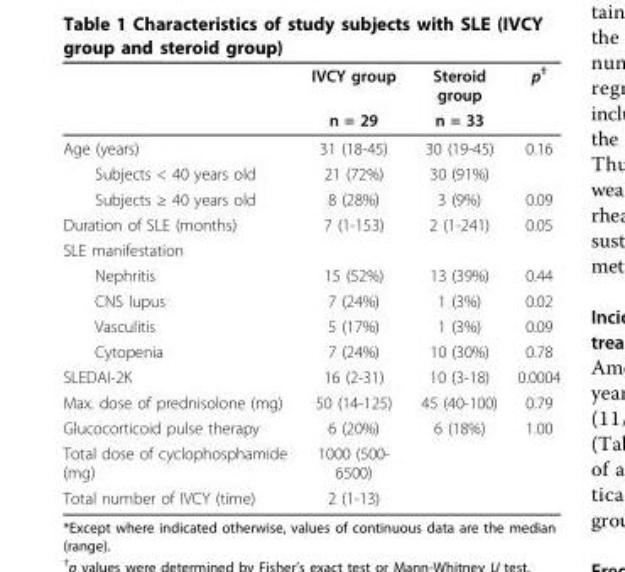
<table><thead><tr><td rowspan="2"></td><td rowspan="2">IVCY group n = 29</td><td rowspan="2">Steroid group n = 33</td><td rowspan="2">p<sup>†</sup></td></tr><tr></tr></thead><tbody><tr><td>Age (years)</td><td>31 (18-45)</td><td>30 (19-45)</td><td>0.16</td></tr><tr><td>Subjects &lt; 40 years old</td><td>21 (72%)</td><td>30 (91%)</td><td></td></tr><tr><td>Subjects ≥ 40 years old</td><td>8 (28%)</td><td>3 (9%)</td><td>0.09</td></tr><tr><td>Duration of SLE (months)</td><td>7 (1-153)</td><td>2 (1-241)</td><td>0.05</td></tr><tr><td colspan="4">SLE manifestation</td></tr><tr><td>Nephritis</td><td>15 (52%)</td><td>13 (39%)</td><td>0.44</td></tr><tr><td>CNS lupus</td><td>7 (24%)</td><td>1 (3%)</td><td>0.02</td></tr><tr><td>Vasculitis</td><td>5 (17%)</td><td>1 (3%)</td><td>0.09</td></tr><tr><td>Cytopenia</td><td>7 (24%)</td><td>10 (30%)</td><td>0.78</td></tr><tr><td>SLEDAI-2K</td><td>16 (2-31)</td><td>10 (3-18)</td><td>0.0004</td></tr><tr><td>Max. dose of prednisolone (mg)</td><td>50 (14-125)</td><td>45 (40-100)</td><td>0.79</td></tr><tr><td>Glucocorticoid pulse therapy</td><td>6 (20%)</td><td>6 (18%)</td><td>1.00</td></tr><tr><td>Total dose of cyclophosphamide (mg)</td><td>1000 (500- 6500)</td><td></td><td></td></tr><tr><td>Total number of IVCY (time)</td><td>2 (1-13)</td><td></td><td></td></tr></tbody></table>